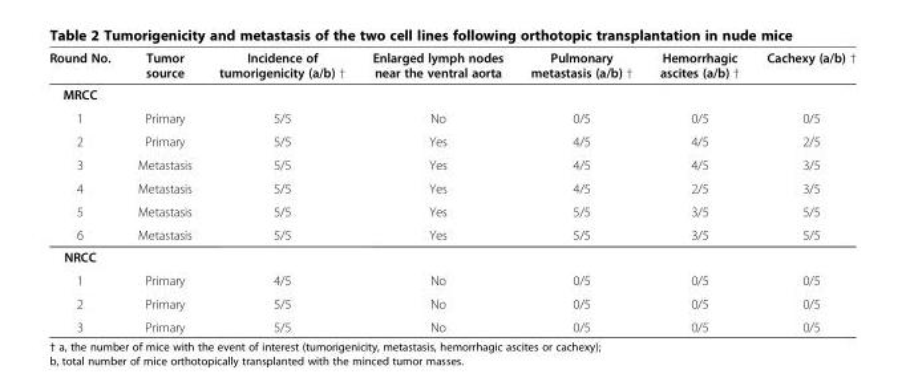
<table><thead><tr><td>Round No.</td><td>Tumor source</td><td>Incidence of tumorigenicity (a/b) †</td><td>Enlarged lymph nodes near the ventral aorta</td><td>Pulmonary metastasis (a/b) †</td><td>Hemorrhagic ascites (a/b) †</td><td>Cachexy (a/b) †</td></tr></thead><tbody><tr><td colspan="7">MRCC</td></tr><tr><td>1</td><td>Primary</td><td>5/5</td><td>No</td><td>0/5</td><td>0/5</td><td>0/5</td></tr><tr><td>2</td><td>Primary</td><td>5/5</td><td>Yes</td><td>4/5</td><td>4/5</td><td>2/5</td></tr><tr><td>3</td><td>Metastasis</td><td>5/5</td><td>Yes</td><td>4/5</td><td>4/5</td><td>3/5</td></tr><tr><td>4</td><td>Metastasis</td><td>5/5</td><td>Yes</td><td>4/5</td><td>2/5</td><td>3/5</td></tr><tr><td>5</td><td>Metastasis</td><td>5/5</td><td>Yes</td><td>5/5</td><td>3/5</td><td>5/5</td></tr><tr><td>6</td><td>Metastasis</td><td>5/5</td><td>Yes</td><td>5/5</td><td>3/5</td><td>5/5</td></tr><tr><td colspan="7">NRCC</td></tr><tr><td>1</td><td>Primary</td><td>4/5</td><td>No</td><td>0/5</td><td>0/5</td><td>0/5</td></tr><tr><td>2</td><td>Primary</td><td>5/5</td><td>No</td><td>0/5</td><td>0/5</td><td>0/5</td></tr><tr><td>3</td><td>Primary</td><td>5/5</td><td>No</td><td>0/5</td><td>0/5</td><td>0/5</td></tr></tbody></table>